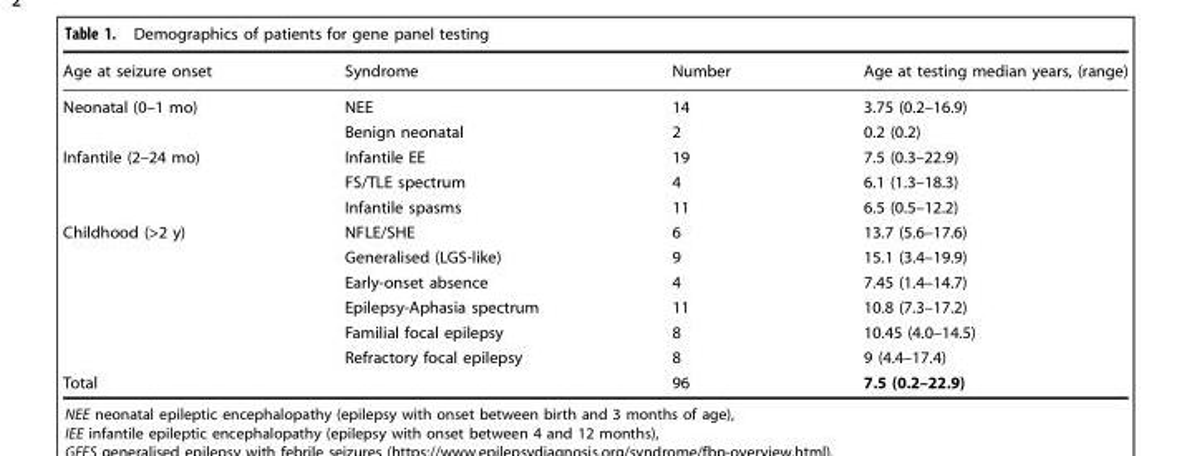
<table><thead><tr><td>Age at seizure onset</td><td>Syndrome</td><td>Number</td><td>Age at testing median years, (range)</td></tr></thead><tbody><tr><td rowspan="2">Neonatal (0–1 mo)</td><td>NEE</td><td>14</td><td>3.75 (0.2–16.9)</td></tr><tr><td>Benign neonatal</td><td>2</td><td>0.2 (0.2)</td></tr><tr><td rowspan="3">Infantile (2–24 mo)</td><td>Infantile EE</td><td>19</td><td>7.5 (0.3–22.9)</td></tr><tr><td>FS/TLE spectrum</td><td>4</td><td>6.1 (1.3–18.3)</td></tr><tr><td>Infantile spasms</td><td>11</td><td>6.5 (0.5–12.2)</td></tr><tr><td rowspan="6">Childhood (&gt;2 y)</td><td>NFLE/SHE</td><td>6</td><td>13.7 (5.6–17.6)</td></tr><tr><td>Generalised (LGS-like)</td><td>9</td><td>15.1 (3.4–19.9)</td></tr><tr><td>Early-onset absence</td><td>4</td><td>7.45 (1.4–14.7)</td></tr><tr><td>Epilepsy-Aphasia spectrum</td><td>11</td><td>10.8 (7.3–17.2)</td></tr><tr><td>Familial focal epilepsy</td><td>8</td><td>10.45 (4.0–14.5)</td></tr><tr><td>Refractory focal epilepsy</td><td>8</td><td>9 (4.4–17.4)</td></tr><tr><td>Total</td><td></td><td>96</td><td>7.5 (0.2–22.9)</td></tr></tbody></table>